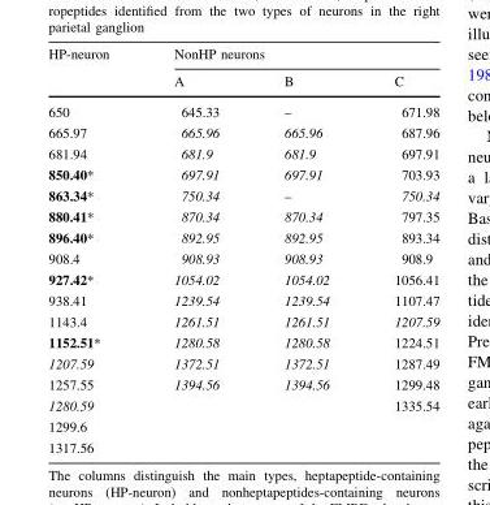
<table><thead><tr><td rowspan="2">HP-neuron</td><td colspan="3">NonHP neurons</td></tr><tr><td>A</td><td>B</td><td>C</td></tr></thead><tbody><tr><td>650</td><td>645.33</td><td>–</td><td>671.98</td></tr><tr><td>665.97</td><td>665.96</td><td>665.96</td><td>687.96</td></tr><tr><td>681.94</td><td>681.9</td><td>681.9</td><td>697.91</td></tr><tr><td>850.40*</td><td>697.91</td><td>697.91</td><td>703.93</td></tr><tr><td>863.34*</td><td>750.34</td><td>–</td><td>750.34</td></tr><tr><td>880.41*</td><td>870.34</td><td>870.34</td><td>797.35</td></tr><tr><td>896.40*</td><td>892.95</td><td>892.95</td><td>893.34</td></tr><tr><td>908.4</td><td>908.93</td><td>908.93</td><td>908.9</td></tr><tr><td>927.42*</td><td>1054.02</td><td>1054.02</td><td>1056.41</td></tr><tr><td>938.41</td><td>1239.54</td><td>1239.54</td><td>1107.47</td></tr><tr><td>1143.4</td><td>1261.51</td><td>1261.51</td><td>1207.59</td></tr><tr><td>1152.51*</td><td>1280.58</td><td>1280.58</td><td>1224.51</td></tr><tr><td>1207.59</td><td>1372.51</td><td>1372.51</td><td>1287.49</td></tr><tr><td>1257.55</td><td>1394.56</td><td>1394.56</td><td>1299.48</td></tr><tr><td>1280.59</td><td></td><td></td><td>1335.54</td></tr><tr><td colspan="4">1299.6</td></tr><tr><td>1317.56</td><td></td><td></td><td></td></tr></tbody></table>